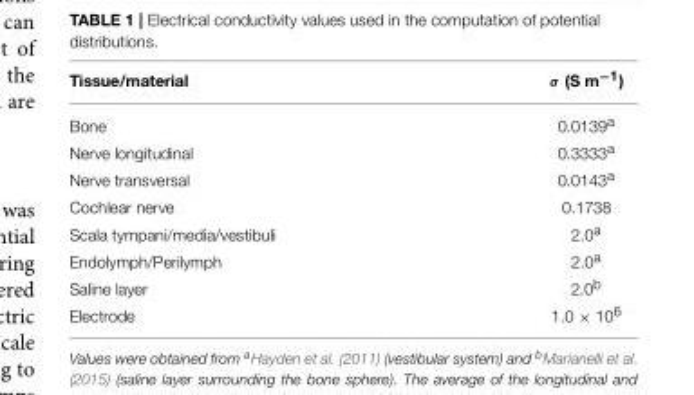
<table><thead><tr><td>Tissue/material</td><td>σ (S m<sup>−1</sup>)</td></tr></thead><tbody><tr><td>Bone</td><td>0.0139<sup>a</sup></td></tr><tr><td>Nerve longitudinal</td><td>0.3333<sup>a</sup></td></tr><tr><td>Nerve transversal</td><td>0.0143<sup>a</sup></td></tr><tr><td>Cochlear nerve</td><td>0.1738</td></tr><tr><td>Scala tympani/media/vestibuli</td><td>2.0<sup>a</sup></td></tr><tr><td>Endolymph/Perilymph</td><td>2.0<sup>a</sup></td></tr><tr><td>Saline layer</td><td>2.0<sup>b</sup></td></tr><tr><td>Electrode</td><td>1.0 × 10<sup>6</sup></td></tr></tbody></table>